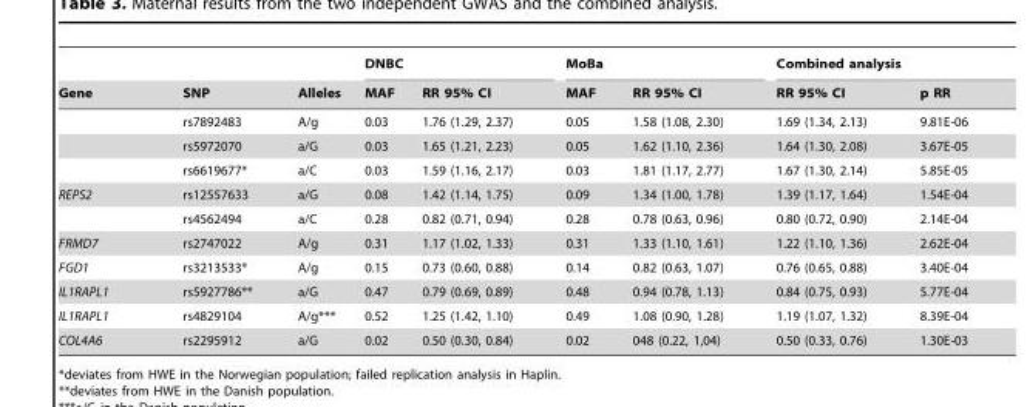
<table><thead><tr><td rowspan="2">Gene</td><td rowspan="2">SNP</td><td rowspan="2">Alleles</td><td colspan="2">DNBC</td><td colspan="2">MoBa</td><td colspan="2">Combined analysis</td></tr><tr><td>MAF</td><td>RR 95% CI</td><td>MAF</td><td>RR 95% CI</td><td>RR 95% CI</td><td>p RR</td></tr></thead><tbody><tr><td></td><td>rs7892483</td><td>A/g</td><td>0.03</td><td>1.76 (1.29, 2.37)</td><td>0.05</td><td>1.58 (1.08, 2.30)</td><td>1.69 (1.34, 2.13)</td><td>9.81E-06</td></tr><tr><td></td><td>rs5972070</td><td>a/G</td><td>0.03</td><td>1.65 (1.21, 2.23)</td><td>0.05</td><td>1.62 (1.10, 2.36)</td><td>1.64 (1.30, 2.08)</td><td>3.67E-05</td></tr><tr><td></td><td>rs6619677*</td><td>a/C</td><td>0.03</td><td>1.59 (1.16, 2.17)</td><td>0.03</td><td>1.81 (1.17, 2.77)</td><td>1.67 (1.30, 2.14)</td><td>5.85E-05</td></tr><tr><td rowspan="2">REPS2</td><td>rs12557633</td><td>a/G</td><td>0.08</td><td>1.42 (1.14, 1.75)</td><td>0.09</td><td>1.34 (1.00, 1.78)</td><td>1.39 (1.17, 1.64)</td><td>1.54E-04</td></tr><tr><td>rs4562494</td><td>a/C</td><td>0.28</td><td>0.82 (0.71, 0.94)</td><td>0.28</td><td>0.78 (0.63, 0.96)</td><td>0.80 (0.72, 0.90)</td><td>2.14E-04</td></tr><tr><td>FRMD7</td><td>rs2747022</td><td>A/g</td><td>0.31</td><td>1.17 (1.02, 1.33)</td><td>0.31</td><td>1.33 (1.10, 1.61)</td><td>1.22 (1.10, 1.36)</td><td>2.62E-04</td></tr><tr><td>FGD1</td><td>rs3213533*</td><td>A/g</td><td>0.15</td><td>0.73 (0.60, 0.88)</td><td>0.14</td><td>0.82 (0.63, 1.07)</td><td>0.76 (0.65, 0.88)</td><td>3.40E-04</td></tr><tr><td>IL1RAPL1</td><td>rs5927786**</td><td>a/G</td><td>0.47</td><td>0.79 (0.69, 0.89)</td><td>0.48</td><td>0.94 (0.78, 1.13)</td><td>0.84 (0.75, 0.93)</td><td>5.77E-04</td></tr><tr><td>IL1RAPL1</td><td>rs4829104</td><td>A/g***</td><td>0.52</td><td>1.25 (1.42, 1.10)</td><td>0.49</td><td>1.08 (0.90, 1.28)</td><td>1.19 (1.07, 1.32)</td><td>8.39E-04</td></tr><tr><td>COL4A6</td><td>rs2295912</td><td>a/G</td><td>0.02</td><td>0.50 (0.30, 0.84)</td><td>0.02</td><td>048 (0.22, 1,04)</td><td>0.50 (0.33, 0.76)</td><td>1.30E-03</td></tr></tbody></table>